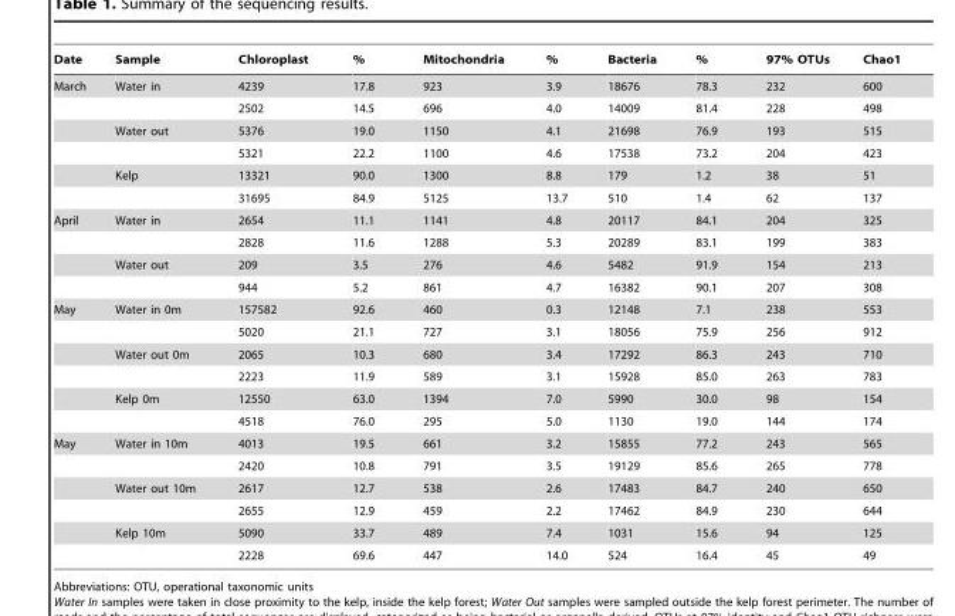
<table><thead><tr><td>Date</td><td>Sample</td><td>Chloroplast</td><td>%</td><td>Mitochondria</td><td>%</td><td>Bacteria</td><td>%</td><td>97% OTUs</td><td>Chao1</td></tr></thead><tbody><tr><td rowspan="6">March</td><td>Water in</td><td>4239</td><td>17.8</td><td>923</td><td>3.9</td><td>18676</td><td>78.3</td><td>232</td><td>600</td></tr><tr><td></td><td>2502</td><td>14.5</td><td>696</td><td>4.0</td><td>14009</td><td>81.4</td><td>228</td><td>498</td></tr><tr><td>Water out</td><td>5376</td><td>19.0</td><td>1150</td><td>4.1</td><td>21698</td><td>76.9</td><td>193</td><td>515</td></tr><tr><td></td><td>5321</td><td>22.2</td><td>1100</td><td>4.6</td><td>17538</td><td>73.2</td><td>204</td><td>423</td></tr><tr><td>Kelp</td><td>13321</td><td>90.0</td><td>1300</td><td>8.8</td><td>179</td><td>1.2</td><td>38</td><td>51</td></tr><tr><td></td><td>31695</td><td>84.9</td><td>5125</td><td>13.7</td><td>510</td><td>1.4</td><td>62</td><td>137</td></tr><tr><td rowspan="4">April</td><td>Water in</td><td>2654</td><td>11.1</td><td>1141</td><td>4.8</td><td>20117</td><td>84.1</td><td>204</td><td>325</td></tr><tr><td></td><td>2828</td><td>11.6</td><td>1288</td><td>5.3</td><td>20289</td><td>83.1</td><td>199</td><td>383</td></tr><tr><td>Water out</td><td>209</td><td>3.5</td><td>276</td><td>4.6</td><td>5482</td><td>91.9</td><td>154</td><td>213</td></tr><tr><td></td><td>944</td><td>5.2</td><td>861</td><td>4.7</td><td>16382</td><td>90.1</td><td>207</td><td>308</td></tr><tr><td rowspan="6">May</td><td>Water in 0m</td><td>157582</td><td>92.6</td><td>460</td><td>0.3</td><td>12148</td><td>7.1</td><td>238</td><td>553</td></tr><tr><td></td><td>5020</td><td>21.1</td><td>727</td><td>3.1</td><td>18056</td><td>75.9</td><td>256</td><td>912</td></tr><tr><td>Water out 0m</td><td>2065</td><td>10.3</td><td>680</td><td>3.4</td><td>17292</td><td>86.3</td><td>243</td><td>710</td></tr><tr><td></td><td>2223</td><td>11.9</td><td>589</td><td>3.1</td><td>15928</td><td>85.0</td><td>263</td><td>783</td></tr><tr><td>Kelp 0m</td><td>12550</td><td>63.0</td><td>1394</td><td>7.0</td><td>5990</td><td>30.0</td><td>98</td><td>154</td></tr><tr><td></td><td>4518</td><td>76.0</td><td>295</td><td>5.0</td><td>1130</td><td>19.0</td><td>144</td><td>174</td></tr><tr><td rowspan="6">May</td><td>Water in 10m</td><td>4013</td><td>19.5</td><td>661</td><td>3.2</td><td>15855</td><td>77.2</td><td>243</td><td>565</td></tr><tr><td></td><td>2420</td><td>10.8</td><td>791</td><td>3.5</td><td>19129</td><td>85.6</td><td>265</td><td>778</td></tr><tr><td>Water out 10m</td><td>2617</td><td>12.7</td><td>538</td><td>2.6</td><td>17483</td><td>84.7</td><td>240</td><td>650</td></tr><tr><td></td><td>2655</td><td>12.9</td><td>459</td><td>2.2</td><td>17462</td><td>84.9</td><td>230</td><td>644</td></tr><tr><td>Kelp 10m</td><td>5090</td><td>33.7</td><td>489</td><td>7.4</td><td>1031</td><td>15.6</td><td>94</td><td>125</td></tr><tr><td></td><td>2228</td><td>69.6</td><td>447</td><td>14.0</td><td>524</td><td>16.4</td><td>45</td><td>49</td></tr></tbody></table>